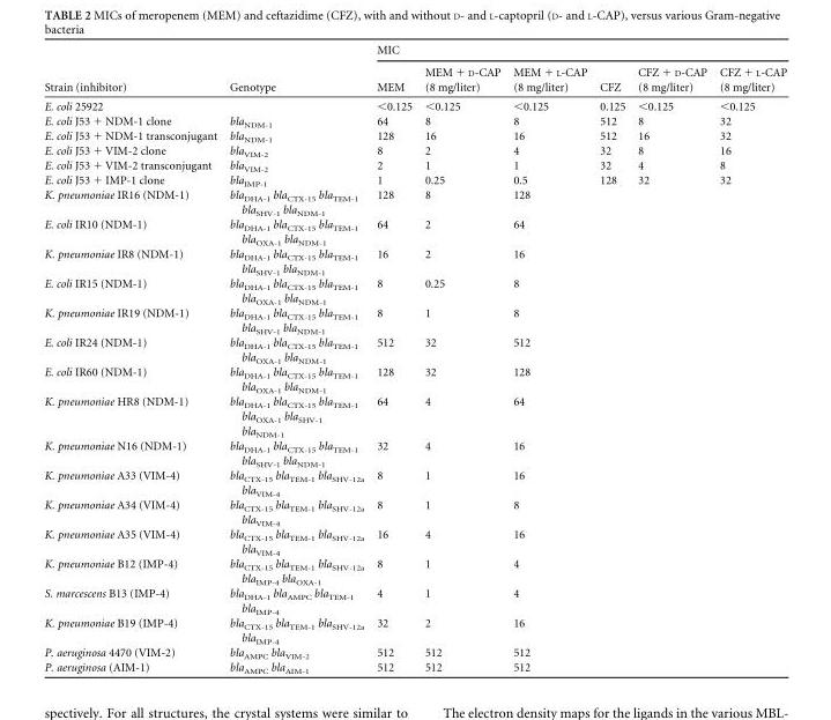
<table><thead><tr><td rowspan="2">Strain (inhibitor)</td><td rowspan="2">Genotype</td><td colspan="6">MIC</td></tr><tr><td>MEM</td><td>MEM + D-CAP (8 mg/liter)</td><td>MEM + L-CAP (8 mg/liter)</td><td>CFZ</td><td>CFZ + D-CAP (8 mg/liter)</td><td>CFZ + L-CAP (8 mg/liter)</td></tr></thead><tbody><tr><td>E. coli 25922</td><td></td><td>&lt;0.125</td><td>&lt;0.125</td><td>&lt;0.125</td><td>0.125</td><td>&lt;0.125</td><td>&lt;0.125</td></tr><tr><td>E. coli J53 + NDM-1 clone</td><td>bla<sub>NDM-1</sub></td><td>64</td><td>8</td><td>8</td><td>512</td><td>8</td><td>32</td></tr><tr><td>E. coli J53 + NDM-1 transconjugant</td><td>bla<sub>NDM-1</sub></td><td>128</td><td>16</td><td>16</td><td>512</td><td>16</td><td>32</td></tr><tr><td>E. coli J53 + VIM-2 clone</td><td>bla<sub>VIM-2</sub></td><td>8</td><td>2</td><td>4</td><td>32</td><td>8</td><td>16</td></tr><tr><td>E. coli J53 + VIM-2 transconjugant</td><td>bla<sub>VIM-2</sub></td><td>2</td><td>1</td><td>1</td><td>32</td><td>4</td><td>8</td></tr><tr><td>E. coli J53 + IMP-1 clone</td><td>bla<sub>IMP-1</sub></td><td>1</td><td>0.25</td><td>0.5</td><td>128</td><td>32</td><td>32</td></tr><tr><td>K. pneumoniae IR16 (NDM-1)</td><td>bla<sub>DHA-1</sub> bla<sub>CTX-15</sub> bla<sub>TEM-1</sub> bla<sub>SHV-1</sub> bla<sub>NDM-1</sub></td><td>128</td><td>8</td><td>128</td><td></td><td></td><td></td></tr><tr><td>E. coli IR10 (NDM-1)</td><td>bla<sub>DHA-1</sub> bla<sub>CTX-15</sub> bla<sub>TEM-1</sub> bla<sub>OXA-1</sub> bla<sub>NDM-1</sub></td><td>64</td><td>2</td><td>64</td><td></td><td></td><td></td></tr><tr><td>K. pneumoniae IR8 (NDM-1)</td><td>bla<sub>DHA-1</sub> bla<sub>CTX-15</sub> bla<sub>TEM-1</sub> bla<sub>SHV-1</sub> bla<sub>NDM-1</sub></td><td>16</td><td>2</td><td>16</td><td></td><td></td><td></td></tr><tr><td>E. coli IR15 (NDM-1)</td><td>bla<sub>DHA-1</sub> bla<sub>CTX-15</sub> bla<sub>TEM-1</sub> bla<sub>OXA-1</sub> bla<sub>NDM-1</sub></td><td>8</td><td>0.25</td><td>8</td><td></td><td></td><td></td></tr><tr><td>K. pneumoniae IR19 (NDM-1)</td><td>bla<sub>DHA-1</sub> bla<sub>CTX-15</sub> bla<sub>TEM-1</sub> bla<sub>SHV-1</sub> bla<sub>NDM-1</sub></td><td>8</td><td>1</td><td>8</td><td></td><td></td><td></td></tr><tr><td>E. coli IR24 (NDM-1)</td><td>bla<sub>DHA-1</sub> bla<sub>CTX-15</sub> bla<sub>TEM-1</sub> bla<sub>OXA-1</sub> bla<sub>NDM-1</sub></td><td>512</td><td>32</td><td>512</td><td></td><td></td><td></td></tr><tr><td>E. coli IR60 (NDM-1)</td><td>bla<sub>DHA-1</sub> bla<sub>CTX-15</sub> bla<sub>TEM-1</sub> bla<sub>OXA-1</sub> bla<sub>NDM-1</sub></td><td>128</td><td>32</td><td>128</td><td></td><td></td><td></td></tr><tr><td>K. pneumoniae HR8 (NDM-1)</td><td>bla<sub>DHA-1</sub> bla<sub>CTX-15</sub> bla<sub>TEM-1</sub> bla<sub>OXA-1</sub> bla<sub>SHV-1</sub> bla<sub>NDM-1</sub></td><td>64</td><td>4</td><td>64</td><td></td><td></td><td></td></tr><tr><td>K. pneumoniae N16 (NDM-1)</td><td>bla<sub>DHA-1</sub> bla<sub>CTX-15</sub> bla<sub>TEM-1</sub> bla<sub>SHV-1</sub> bla<sub>NDM-1</sub></td><td>32</td><td>4</td><td>16</td><td></td><td></td><td></td></tr><tr><td>K. pneumoniae A33 (VIM-4)</td><td>bla<sub>CTX-15</sub> bla<sub>TEM-1</sub> bla<sub>SHV-12a</sub> bla<sub>VIM-4</sub></td><td>8</td><td>1</td><td>16</td><td></td><td></td><td></td></tr><tr><td>K. pneumoniae A34 (VIM-4)</td><td>bla<sub>CTX-15</sub> bla<sub>TEM-1</sub> bla<sub>SHV-12a</sub> bla<sub>VIM-4</sub></td><td>8</td><td>1</td><td>8</td><td></td><td></td><td></td></tr><tr><td>K. pneumoniae A35 (VIM-4)</td><td>bla<sub>CTX-15</sub> bla<sub>TEM-1</sub> bla<sub>SHV-12a</sub> bla<sub>VIM-4</sub></td><td>16</td><td>4</td><td>16</td><td></td><td></td><td></td></tr><tr><td>K. pneumoniae B12 (IMP-4)</td><td>bla<sub>CTX-15</sub> bla<sub>TEM-1</sub> bla<sub>SHV-12a</sub> bla<sub>IMP-4</sub> bla<sub>OXA-1</sub></td><td>8</td><td>1</td><td>4</td><td></td><td></td><td></td></tr><tr><td>S. marcescens B13 (IMP-4)</td><td>bla<sub>DHA-1</sub> bla<sub>AMPC</sub> bla<sub>TEM-1</sub> bla<sub>IMP-4</sub></td><td>4</td><td>1</td><td>4</td><td></td><td></td><td></td></tr><tr><td>K. pneumoniae B19 (IMP-4)</td><td>bla<sub>CTX-15</sub> bla<sub>TEM-1</sub> bla<sub>SHV-12a</sub> bla<sub>IMP-4</sub></td><td>32</td><td>2</td><td>16</td><td></td><td></td><td></td></tr><tr><td>P. aeruginosa 4470 (VIM-2)</td><td>bla<sub>AMPC</sub> bla<sub>VIM-2</sub></td><td>512</td><td>512</td><td>512</td><td></td><td></td><td></td></tr><tr><td>P. aeruginosa (AIM-1)</td><td>bla<sub>AMPC</sub> bla<sub>AIM-1</sub></td><td>512</td><td>512</td><td>512</td><td></td><td></td><td></td></tr></tbody></table>